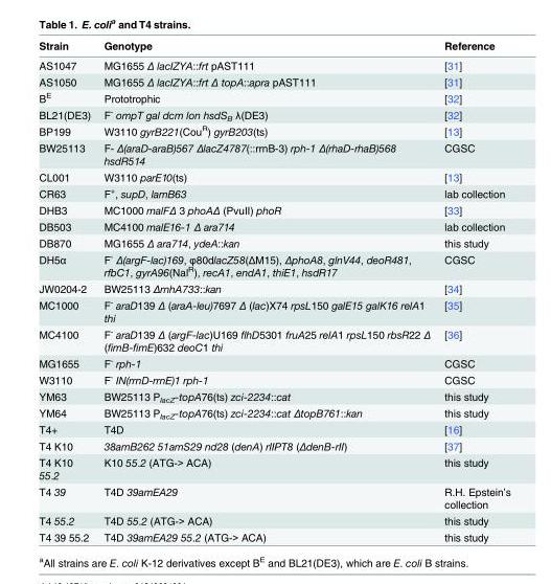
<table><thead><tr><td>Strain</td><td>Genotype</td><td>Reference</td></tr></thead><tbody><tr><td>AS1047</td><td>MG1655 Δ lacIZYA::frt pAST111</td><td>[31]</td></tr><tr><td>AS1050</td><td>MG1655 Δ lacIZYA::frt Δ topA::apra pAST111</td><td>[31]</td></tr><tr><td>B<sup>E</sup></td><td>Prototrophic</td><td>[32]</td></tr><tr><td>BL21(DE3)</td><td>F<sup>-</sup> ompT gal dcm lon hsdS<sub>B</sub> λ(DE3)</td><td>[32]</td></tr><tr><td>BP199</td><td>W3110 gyrB221(Cou<sup>R</sup>) gyrB203(ts)</td><td>[13]</td></tr><tr><td>BW25113</td><td>F- Δ(araD-araB)567 ΔlacZ4787(::rrnB-3) rph-1 Δ(rhaD-rhaB)568 hsdR514</td><td>CGSC</td></tr><tr><td>CL001</td><td>W3110 parE10(ts)</td><td>[13]</td></tr><tr><td>CR63</td><td>F<sup>+</sup>, supD, lamB63</td><td>lab collection</td></tr><tr><td>DHB3</td><td>MC1000 malFΔ 3 phoAΔ (PvuII) phoR</td><td>[33]</td></tr><tr><td>DB503</td><td>MC4100 malE16-1 Δ ara714</td><td>lab collection</td></tr><tr><td>DB870</td><td>MG1655 Δ ara714, ydeA::kan</td><td>this study</td></tr><tr><td>DH5α</td><td>F<sup>-</sup> Δ(argF-lac)169, φ80dlacZ58(ΔM15), ΔphoA8, glnV44, deoR481, rfbC1, gyrA96(Nal<sup>R</sup>), recA1, endA1, thiE1, hsdR17</td><td>CGSC</td></tr><tr><td>JW0204-2</td><td>BW25113 ΔrnhA733::kan</td><td>[34]</td></tr><tr><td>MC1000</td><td>F<sup>-</sup> araD139 Δ (araA-leu)7697 Δ (lac)X74 rpsL150 galE15 galK16 relA1 thi</td><td>[35]</td></tr><tr><td>MC4100</td><td>F<sup>-</sup> araD139 Δ (argF-lac)U169 flhD5301 fruA25 relA1 rpsL150 rbsR22 Δ (fimB-fimE)632 deoC1 thi</td><td>[36]</td></tr><tr><td>MG1655</td><td>F<sup>-</sup> rph-1</td><td>CGSC</td></tr><tr><td>W3110</td><td>F<sup>-</sup> IN(rrnD-rrnE)1 rph-1</td><td>CGSC</td></tr><tr><td>YM63</td><td>BW25113 P<sub>lacZ</sub>-topA76(ts) zci-2234::cat</td><td>this study</td></tr><tr><td>YM64</td><td>BW25113 P<sub>lacZ</sub>-topA76(ts) zci-2234::cat ΔtopB761::kan</td><td>this study</td></tr><tr><td>T4+</td><td>T4D</td><td>[16]</td></tr><tr><td>T4 K10</td><td>38amB262 51amS29 nd28 (denA) rIIPT8 (ΔdenB-rII)</td><td>[37]</td></tr><tr><td>T4 K10 55.2</td><td>K10 55.2 (ATG-&gt; ACA)</td><td>this study</td></tr><tr><td>T4 39</td><td>T4D 39amEA29</td><td>R.H. Epstein’s collection</td></tr><tr><td>T4 55.2</td><td>T4D 55.2 (ATG-&gt; ACA)</td><td>this study</td></tr><tr><td>T4 39 55.2</td><td>T4D 39amEA29 55.2 (ATG-&gt; ACA)</td><td>this study</td></tr></tbody></table>